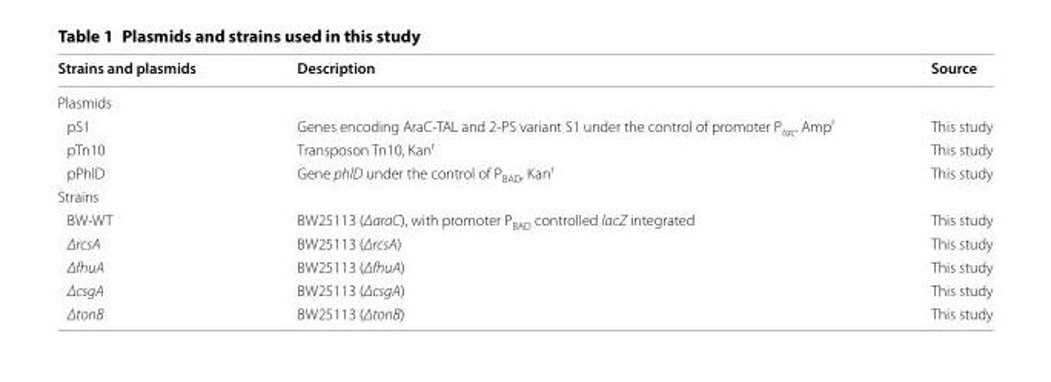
<table><thead><tr><td>Strains and plasmids</td><td>Description</td><td>Source</td></tr></thead><tbody><tr><td colspan="3">Plasmids</td></tr><tr><td>pS1</td><td>Genes encoding AraC‑TAL and 2‑PS variant S1 under the control of promoter P<sub>tac</sub>. Amp<sup>r</sup></td><td>This study</td></tr><tr><td>pTn10</td><td>Transposon Tn10, Kan<sup>r</sup></td><td>This study</td></tr><tr><td>pPhlD</td><td>Gene phlD under the control of P<sub>BAD</sub>, Kan<sup>r</sup></td><td>This study</td></tr><tr><td colspan="3">Strains</td></tr><tr><td>BW‑WT</td><td>BW25113 (ΔaraC), with promoter P<sub>BAD</sub> controlled lacZ integrated</td><td>This study</td></tr><tr><td>ΔrcsA</td><td>BW25113 (ΔrcsA)</td><td>This study</td></tr><tr><td>ΔfhuA</td><td>BW25113 (ΔfhuA)</td><td>This study</td></tr><tr><td>ΔcsgA</td><td>BW25113 (ΔcsgA)</td><td>This study</td></tr><tr><td>ΔtonB</td><td>BW25113 (ΔtonB)</td><td>This study</td></tr></tbody></table>